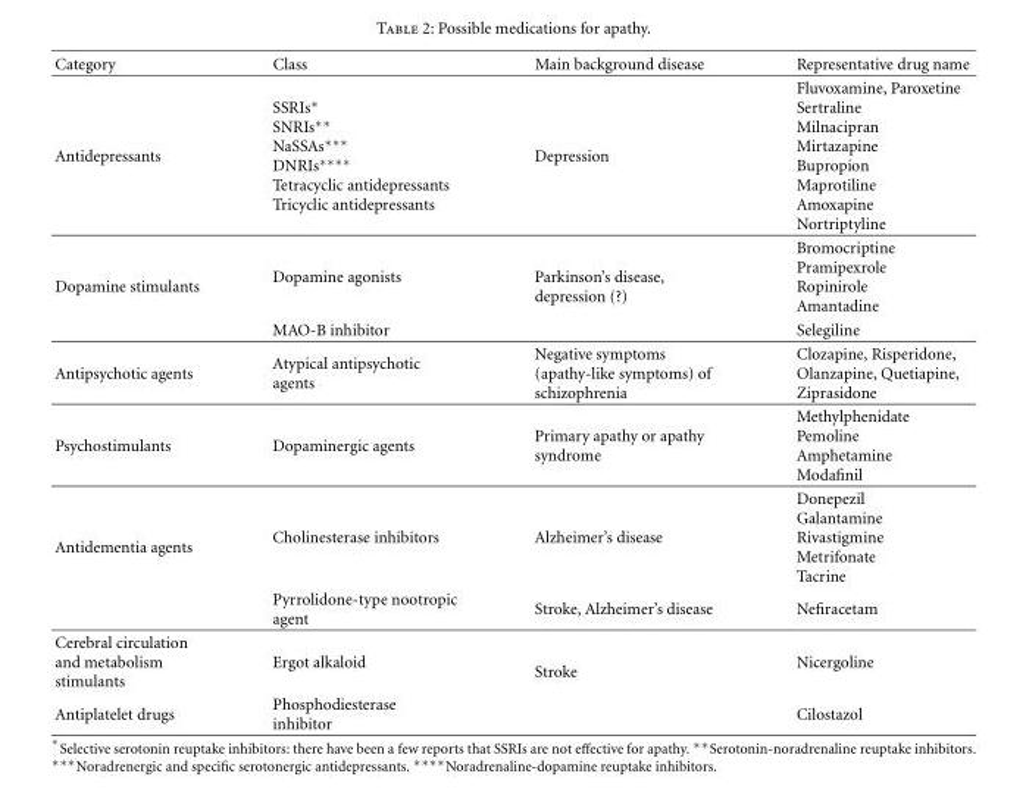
<table><thead><tr><td>Category</td><td>Class</td><td>Main background disease</td><td>Representative drug name</td></tr></thead><tbody><tr><td>Antidepressants</td><td>SSRIs∗ SNRIs∗∗ NaSSAs∗∗∗ DNRIs∗∗∗∗ Tetracyclic antidepressants Tricyclic antidepressants</td><td>Depression</td><td>Fluvoxamine, Paroxetine Sertraline Milnacipran Mirtazapine Bupropion Maprotiline Amoxapine Nortriptyline</td></tr><tr><td rowspan="2">Dopamine stimulants</td><td>Dopamine agonists</td><td rowspan="2">Parkinson’s disease, depression (?)</td><td>Bromocriptine Pramipexrole Ropinirole Amantadine</td></tr><tr><td>MAO-B inhibitor</td><td>Selegiline</td></tr><tr><td>Antipsychotic agents</td><td>Atypical antipsychotic agents</td><td>Negative symptoms (apathy-like symptoms) of schizophrenia</td><td>Clozapine, Risperidone, Olanzapine, Quetiapine, Ziprasidone</td></tr><tr><td>Psychostimulants</td><td>Dopaminergic agents</td><td>Primary apathy or apathy syndrome</td><td>Methylphenidate Pemoline Amphetamine Modafinil</td></tr><tr><td rowspan="2">Antidementia agents</td><td>Cholinesterase inhibitors</td><td>Alzheimer’s disease</td><td>Donepezil Galantamine Rivastigmine Metrifonate Tacrine</td></tr><tr><td>Pyrrolidone-type nootropic agent</td><td>Stroke, Alzheimer’s disease</td><td>Nefiracetam</td></tr><tr><td>Cerebral circulation and metabolism stimulants</td><td>Ergot alkaloid</td><td rowspan="2">Stroke</td><td>Nicergoline</td></tr><tr><td>Antiplatelet drugs</td><td>Phosphodiesterase inhibitor</td><td>Cilostazol</td></tr></tbody></table>